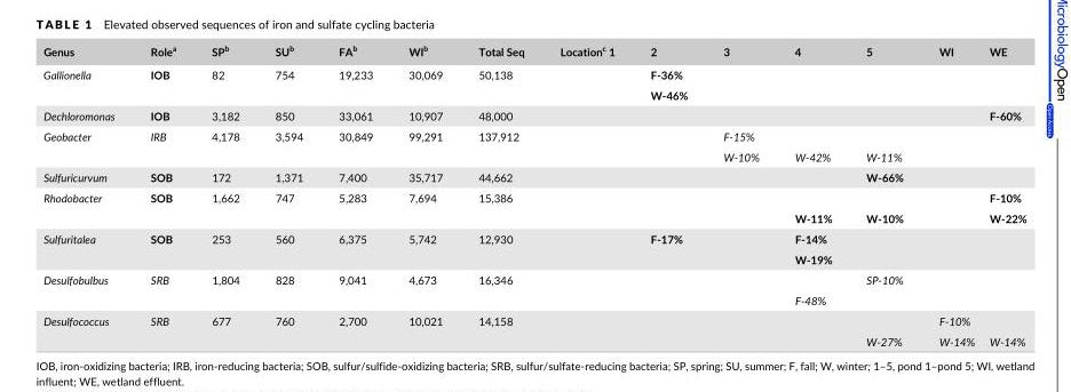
<table><thead><tr><td>Genus</td><td>Role<sup>a</sup></td><td>SP<sup>b</sup></td><td>SU<sup>b</sup></td><td>FA<sup>b</sup></td><td>WI<sup>b</sup></td><td>Total Seq</td><td>Location<sup>c</sup> 1</td><td>2</td><td>3</td><td>4</td><td>5</td><td>WI</td><td>WE</td></tr></thead><tbody><tr><td rowspan="2">Gallionella</td><td>IOB</td><td>82</td><td>754</td><td>19,233</td><td>30,069</td><td>50,138</td><td></td><td>F-36%</td><td></td><td></td><td></td><td></td><td></td></tr><tr><td></td><td></td><td></td><td></td><td></td><td></td><td></td><td>W-46%</td><td></td><td></td><td></td><td></td><td></td></tr><tr><td>Dechloromonas</td><td>IOB</td><td>3,182</td><td>850</td><td>33,061</td><td>10,907</td><td>48,000</td><td></td><td></td><td></td><td></td><td></td><td></td><td>F-60%</td></tr><tr><td rowspan="2">Geobacter</td><td>IRB</td><td>4,178</td><td>3,594</td><td>30,849</td><td>99,291</td><td>137,912</td><td></td><td></td><td>F-15%</td><td></td><td></td><td></td><td></td></tr><tr><td></td><td></td><td></td><td></td><td></td><td></td><td></td><td></td><td>W-10%</td><td>W-42%</td><td>W-11%</td><td></td><td></td></tr><tr><td>Sulfuricurvum</td><td>SOB</td><td>172</td><td>1,371</td><td>7,400</td><td>35,717</td><td>44,662</td><td></td><td></td><td></td><td></td><td>W-66%</td><td></td><td></td></tr><tr><td rowspan="2">Rhodobacter</td><td>SOB</td><td>1,662</td><td>747</td><td>5,283</td><td>7,694</td><td>15,386</td><td></td><td></td><td></td><td></td><td></td><td></td><td>F-10%</td></tr><tr><td></td><td></td><td></td><td></td><td></td><td></td><td></td><td></td><td></td><td>W-11%</td><td>W-10%</td><td></td><td>W-22%</td></tr><tr><td rowspan="2">Sulfuritalea</td><td>SOB</td><td>253</td><td>560</td><td>6,375</td><td>5,742</td><td>12,930</td><td></td><td>F-17%</td><td></td><td>F-14%</td><td></td><td></td><td></td></tr><tr><td></td><td></td><td></td><td></td><td></td><td></td><td></td><td></td><td></td><td>W-19%</td><td></td><td></td><td></td></tr><tr><td rowspan="2">Desulfobulbus</td><td>SRB</td><td>1,804</td><td>828</td><td>9,041</td><td>4,673</td><td>16,346</td><td></td><td></td><td></td><td></td><td>SP-10%</td><td></td><td></td></tr><tr><td></td><td></td><td></td><td></td><td></td><td></td><td></td><td></td><td></td><td>F-48%</td><td></td><td></td><td></td></tr><tr><td rowspan="2">Desulfococcus</td><td>SRB</td><td>677</td><td>760</td><td>2,700</td><td>10,021</td><td>14,158</td><td></td><td></td><td></td><td></td><td></td><td>F-10%</td><td></td></tr><tr><td></td><td></td><td></td><td></td><td></td><td></td><td></td><td></td><td></td><td></td><td>W-27%</td><td>W-14%</td><td>W-14%</td></tr></tbody></table>